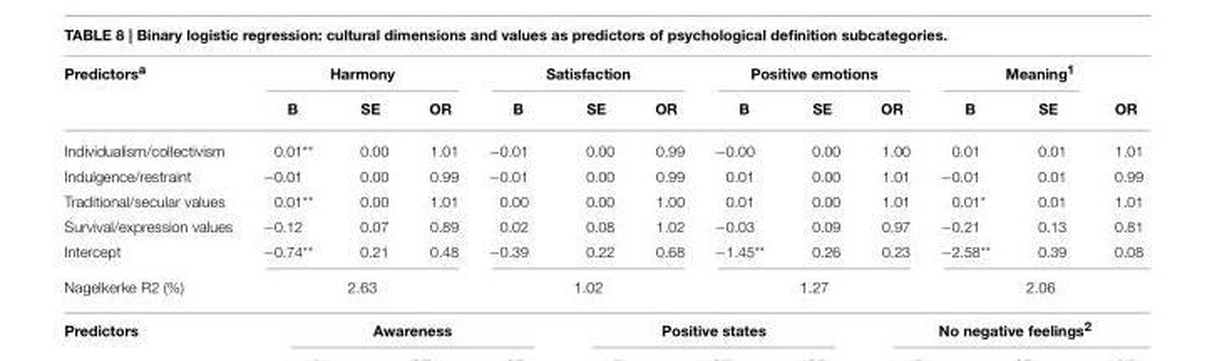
<table><thead><tr><td rowspan="2">Predictors<sup>a</sup></td><td colspan="3">Harmony</td><td colspan="3">Satisfaction</td><td colspan="3">Positive emotions</td><td colspan="3">Meaning<sup>1</sup></td></tr><tr><td>B</td><td>SE</td><td>OR</td><td>B</td><td>SE</td><td>OR</td><td>B</td><td>SE</td><td>OR</td><td>B</td><td>SE</td><td>OR</td></tr></thead><tbody><tr><td>Individualism/collectivism</td><td>0.01**</td><td>0.00</td><td>1.01</td><td>−0.01</td><td>0.00</td><td>0.99</td><td>−0.00</td><td>0.00</td><td>1.00</td><td>0.01</td><td>0.01</td><td>1.01</td></tr><tr><td>Indulgence/restraint</td><td>−0.01</td><td>0.00</td><td>0.99</td><td>−0.01</td><td>0.00</td><td>0.99</td><td>0.01</td><td>0.00</td><td>1.01</td><td>−0.01</td><td>0.01</td><td>0.99</td></tr><tr><td>Traditional/secular values</td><td>0.01**</td><td>0.00</td><td>1.01</td><td>0.00</td><td>0.00</td><td>1.00</td><td>0.01</td><td>0.00</td><td>1.01</td><td>0.01*</td><td>0.01</td><td>1.01</td></tr><tr><td>Survival/expression values</td><td>−0.12</td><td>0.07</td><td>0.89</td><td>0.02</td><td>0.08</td><td>1.02</td><td>−0.03</td><td>0.09</td><td>0.97</td><td>−0.21</td><td>0.13</td><td>0.81</td></tr><tr><td>Intercept</td><td>−0.74**</td><td>0.21</td><td>0.48</td><td>−0.39</td><td>0.22</td><td>0.68</td><td>−1.45**</td><td>0.26</td><td>0.23</td><td>−2.58**</td><td>0.39</td><td>0.08</td></tr><tr><td>Nagelkerke R2 (%)</td><td colspan="3">2.63</td><td colspan="3">1.02</td><td colspan="3">1.27</td><td colspan="3">2.06</td></tr></tbody></table>